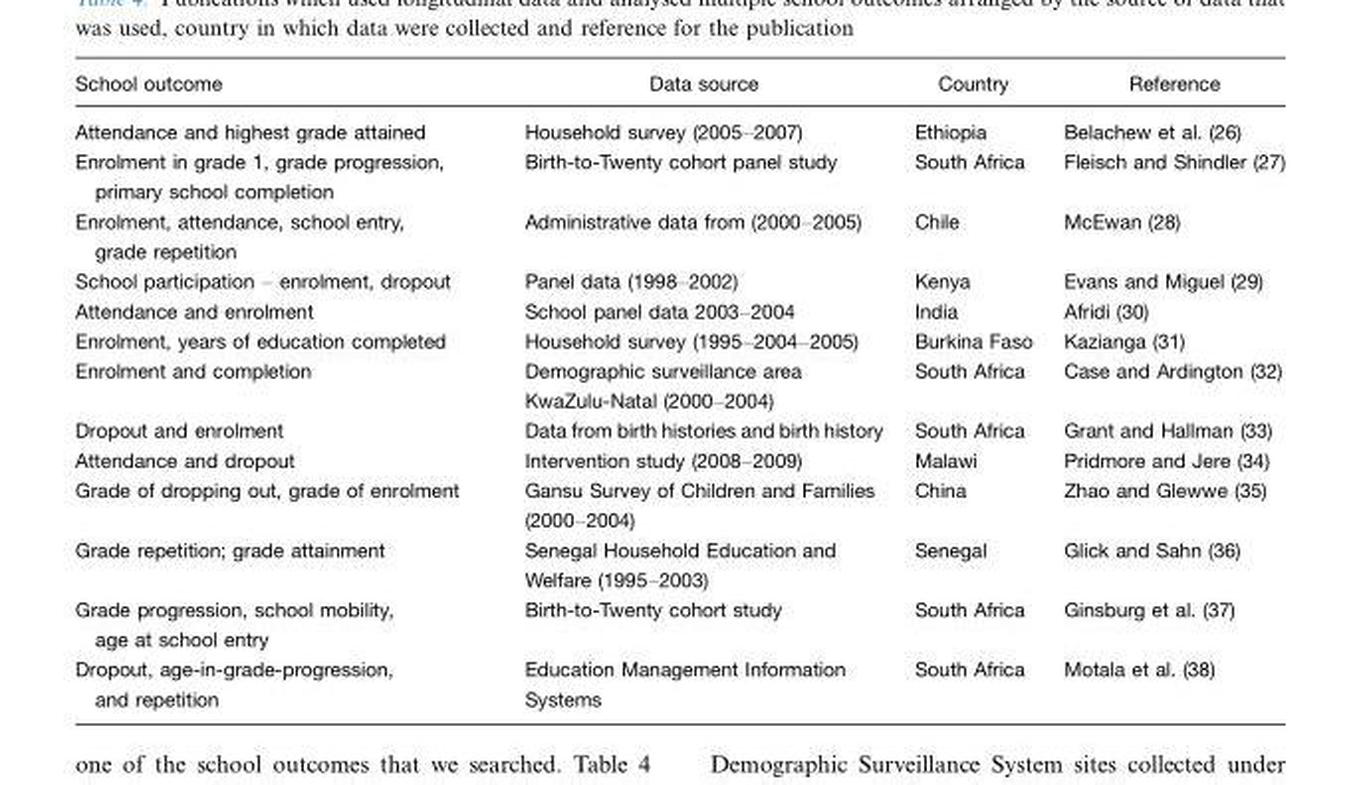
<table><thead><tr><td>School outcome</td><td>Data source</td><td>Country</td><td>Reference</td></tr></thead><tbody><tr><td>Attendance and highest grade attained</td><td>Household survey (2005–2007)</td><td>Ethiopia</td><td>Belachew et al. (26)</td></tr><tr><td>Enrolment in grade 1, grade progression, primary school completion</td><td>Birth-to-Twenty cohort panel study</td><td>South Africa</td><td>Fleisch and Shindler (27)</td></tr><tr><td>Enrolment, attendance, school entry, grade repetition</td><td>Administrative data from (2000–2005)</td><td>Chile</td><td>McEwan (28)</td></tr><tr><td>School participation – enrolment, dropout</td><td>Panel data (1998–2002)</td><td>Kenya</td><td>Evans and Miguel (29)</td></tr><tr><td>Attendance and enrolment</td><td>School panel data 2003–2004</td><td>India</td><td>Afridi (30)</td></tr><tr><td>Enrolment, years of education completed</td><td>Household survey (1995–2004–2005)</td><td>Burkina Faso</td><td>Kazianga (31)</td></tr><tr><td>Enrolment and completion</td><td>Demographic surveillance area KwaZulu-Natal (2000–2004)</td><td>South Africa</td><td>Case and Ardington (32)</td></tr><tr><td>Dropout and enrolment</td><td>Data from birth histories and birth history</td><td>South Africa</td><td>Grant and Hallman (33)</td></tr><tr><td>Attendance and dropout</td><td>Intervention study (2008–2009)</td><td>Malawi</td><td>Pridmore and Jere (34)</td></tr><tr><td>Grade of dropping out, grade of enrolment</td><td>Gansu Survey of Children and Families (2000–2004)</td><td>China</td><td>Zhao and Glewwe (35)</td></tr><tr><td>Grade repetition; grade attainment</td><td>Senegal Household Education and Welfare (1995–2003)</td><td>Senegal</td><td>Glick and Sahn (36)</td></tr><tr><td>Grade progression, school mobility, age at school entry</td><td>Birth-to-Twenty cohort study</td><td>South Africa</td><td>Ginsburg et al. (37)</td></tr><tr><td>Dropout, age-in-grade-progression, and repetition</td><td>Education Management Information Systems</td><td>South Africa</td><td>Motala et al. (38)</td></tr></tbody></table>